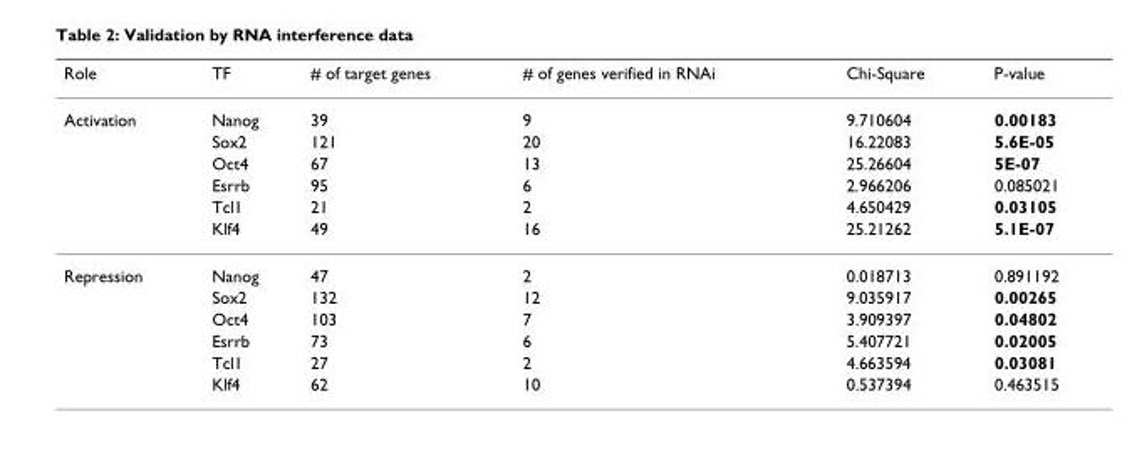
<table><thead><tr><td>Role</td><td>TF</td><td># of target genes</td><td># of genes verified in RNAi</td><td>Chi-Square</td><td>P-value</td></tr></thead><tbody><tr><td rowspan="6">Activation</td><td>Nanog</td><td>39</td><td>9</td><td>9.710604</td><td>0.00183</td></tr><tr><td>Sox2</td><td>121</td><td>20</td><td>16.22083</td><td>5.6E-05</td></tr><tr><td>Oct4</td><td>67</td><td>13</td><td>25.26604</td><td>5E-07</td></tr><tr><td>Esrrb</td><td>95</td><td>6</td><td>2.966206</td><td>0.085021</td></tr><tr><td>Tcl1</td><td>21</td><td>2</td><td>4.650429</td><td>0.03105</td></tr><tr><td>Klf4</td><td>49</td><td>16</td><td>25.21262</td><td>5.1E-07</td></tr><tr><td rowspan="6">Repression</td><td>Nanog</td><td>47</td><td>2</td><td>0.018713</td><td>0.891192</td></tr><tr><td>Sox2</td><td>132</td><td>12</td><td>9.035917</td><td>0.00265</td></tr><tr><td>Oct4</td><td>103</td><td>7</td><td>3.909397</td><td>0.04802</td></tr><tr><td>Esrrb</td><td>73</td><td>6</td><td>5.407721</td><td>0.02005</td></tr><tr><td>Tcl1</td><td>27</td><td>2</td><td>4.663594</td><td>0.03081</td></tr><tr><td>Klf4</td><td>62</td><td>10</td><td>0.537394</td><td>0.463515</td></tr></tbody></table>